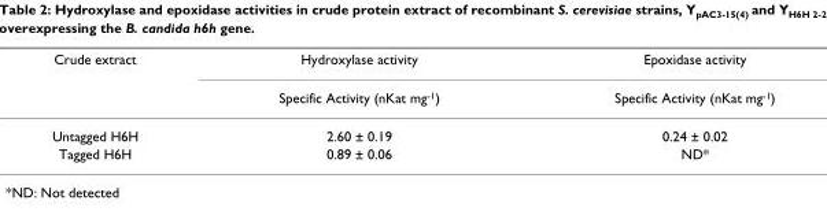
<table><thead><tr><td rowspan="2">Crude extract</td><td rowspan="2">Hydroxylase activity Specific Activity (nKat mg<sup>-1</sup>)</td><td rowspan="2">Epoxidase activity Specific Activity (nKat mg<sup>-1</sup>)</td></tr><tr></tr></thead><tbody><tr><td>Untagged H6H</td><td>2.60 ± 0.19</td><td>0.24 ± 0.02</td></tr><tr><td>Tagged H6H</td><td>0.89 ± 0.06</td><td>ND*</td></tr></tbody></table>